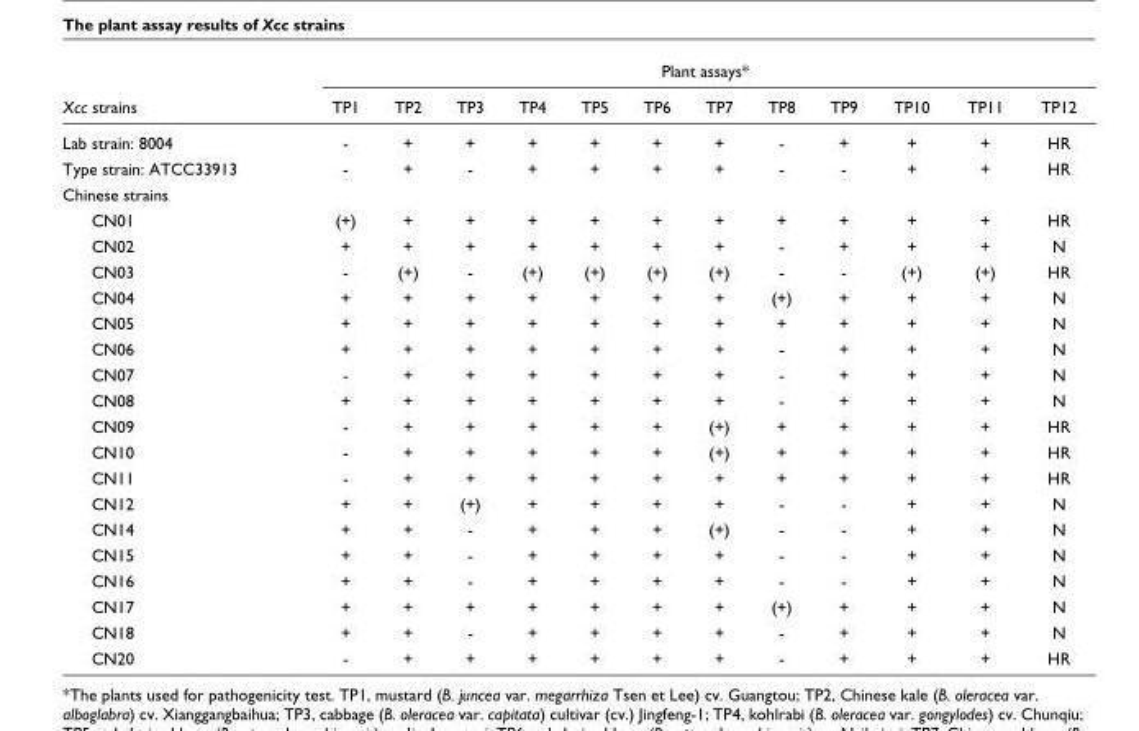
<table><thead><tr><td rowspan="2">Xcc strains</td><td colspan="12">Plant assays*</td></tr><tr><td>TP1</td><td>TP2</td><td>TP3</td><td>TP4</td><td>TP5</td><td>TP6</td><td>TP7</td><td>TP8</td><td>TP9</td><td>TP10</td><td>TP11</td><td>TP12</td></tr></thead><tbody><tr><td>Lab strain: 8004</td><td>-</td><td>+</td><td>+</td><td>+</td><td>+</td><td>+</td><td>+</td><td>-</td><td>+</td><td>+</td><td>+</td><td>HR</td></tr><tr><td>Type strain: ATCC33913</td><td>-</td><td>+</td><td>-</td><td>+</td><td>+</td><td>+</td><td>+</td><td>-</td><td>-</td><td>+</td><td>+</td><td>HR</td></tr><tr><td colspan="13">Chinese strains</td></tr><tr><td>CN01</td><td>(+)</td><td>+</td><td>+</td><td>+</td><td>+</td><td>+</td><td>+</td><td>+</td><td>+</td><td>+</td><td>+</td><td>HR</td></tr><tr><td>CN02</td><td>+</td><td>+</td><td>+</td><td>+</td><td>+</td><td>+</td><td>+</td><td>-</td><td>+</td><td>+</td><td>+</td><td>N</td></tr><tr><td>CN03</td><td>-</td><td>(+)</td><td>-</td><td>(+)</td><td>(+)</td><td>(+)</td><td>(+)</td><td>-</td><td>-</td><td>(+)</td><td>(+)</td><td>HR</td></tr><tr><td>CN04</td><td>+</td><td>+</td><td>+</td><td>+</td><td>+</td><td>+</td><td>+</td><td>(+)</td><td>+</td><td>+</td><td>+</td><td>N</td></tr><tr><td>CN05</td><td>+</td><td>+</td><td>+</td><td>+</td><td>+</td><td>+</td><td>+</td><td>+</td><td>+</td><td>+</td><td>+</td><td>N</td></tr><tr><td>CN06</td><td>+</td><td>+</td><td>+</td><td>+</td><td>+</td><td>+</td><td>+</td><td>-</td><td>+</td><td>+</td><td>+</td><td>N</td></tr><tr><td>CN07</td><td>-</td><td>+</td><td>+</td><td>+</td><td>+</td><td>+</td><td>+</td><td>-</td><td>+</td><td>+</td><td>+</td><td>N</td></tr><tr><td>CN08</td><td>+</td><td>+</td><td>+</td><td>+</td><td>+</td><td>+</td><td>+</td><td>-</td><td>+</td><td>+</td><td>+</td><td>N</td></tr><tr><td>CN09</td><td>-</td><td>+</td><td>+</td><td>+</td><td>+</td><td>+</td><td>(+)</td><td>+</td><td>+</td><td>+</td><td>+</td><td>HR</td></tr><tr><td>CN10</td><td>-</td><td>+</td><td>+</td><td>+</td><td>+</td><td>+</td><td>(+)</td><td>+</td><td>+</td><td>+</td><td>+</td><td>HR</td></tr><tr><td>CN11</td><td>-</td><td>+</td><td>+</td><td>+</td><td>+</td><td>+</td><td>+</td><td>+</td><td>+</td><td>+</td><td>+</td><td>HR</td></tr><tr><td>CN12</td><td>+</td><td>+</td><td>(+)</td><td>+</td><td>+</td><td>+</td><td>+</td><td>-</td><td>-</td><td>+</td><td>+</td><td>N</td></tr><tr><td>CN14</td><td>+</td><td>+</td><td>-</td><td>+</td><td>+</td><td>+</td><td>(+)</td><td>-</td><td>-</td><td>+</td><td>+</td><td>N</td></tr><tr><td>CN15</td><td>+</td><td>+</td><td>-</td><td>+</td><td>+</td><td>+</td><td>+</td><td>-</td><td>-</td><td>+</td><td>+</td><td>N</td></tr><tr><td>CN16</td><td>+</td><td>+</td><td>-</td><td>+</td><td>+</td><td>+</td><td>+</td><td>-</td><td>-</td><td>+</td><td>+</td><td>N</td></tr><tr><td>CN17</td><td>+</td><td>+</td><td>+</td><td>+</td><td>+</td><td>+</td><td>+</td><td>(+)</td><td>+</td><td>+</td><td>+</td><td>N</td></tr><tr><td>CN18</td><td>+</td><td>+</td><td>-</td><td>+</td><td>+</td><td>+</td><td>+</td><td>-</td><td>+</td><td>+</td><td>+</td><td>N</td></tr><tr><td>CN20</td><td>-</td><td>+</td><td>+</td><td>+</td><td>+</td><td>+</td><td>+</td><td>-</td><td>+</td><td>+</td><td>+</td><td>HR</td></tr></tbody></table>